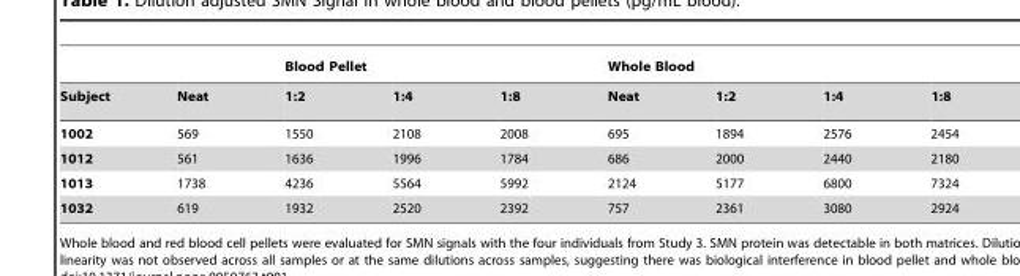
<table><thead><tr><td></td><td></td><td>Blood Pellet</td><td></td><td></td><td>Whole Blood</td><td></td><td></td><td></td></tr></thead><tbody><tr><td>Subject</td><td>Neat</td><td>1:2</td><td>1:4</td><td>1:8</td><td>Neat</td><td>1:2</td><td>1:4</td><td>1:8</td></tr><tr><td>1002</td><td>569</td><td>1550</td><td>2108</td><td>2008</td><td>695</td><td>1894</td><td>2576</td><td>2454</td></tr><tr><td>1012</td><td>561</td><td>1636</td><td>1996</td><td>1784</td><td>686</td><td>2000</td><td>2440</td><td>2180</td></tr><tr><td>1013</td><td>1738</td><td>4236</td><td>5564</td><td>5992</td><td>2124</td><td>5177</td><td>6800</td><td>7324</td></tr><tr><td>1032</td><td>619</td><td>1932</td><td>2520</td><td>2392</td><td>757</td><td>2361</td><td>3080</td><td>2924</td></tr></tbody></table>